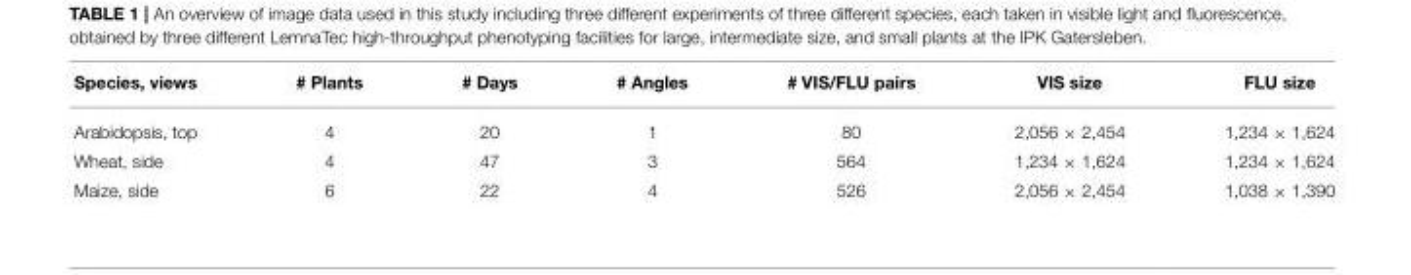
<table><thead><tr><td>Species, views</td><td># Plants</td><td># Days</td><td># Angles</td><td># VIS/FLU pairs</td><td>VIS size</td><td>FLU size</td></tr></thead><tbody><tr><td>Arabidopsis, top</td><td>4</td><td>20</td><td>1</td><td>80</td><td>2,056 × 2,454</td><td>1,234 × 1,624</td></tr><tr><td>Wheat, side</td><td>4</td><td>47</td><td>3</td><td>564</td><td>1,234 × 1,624</td><td>1,234 × 1,624</td></tr><tr><td>Maize, side</td><td>6</td><td>22</td><td>4</td><td>526</td><td>2,056 × 2,454</td><td>1,038 × 1,390</td></tr></tbody></table>